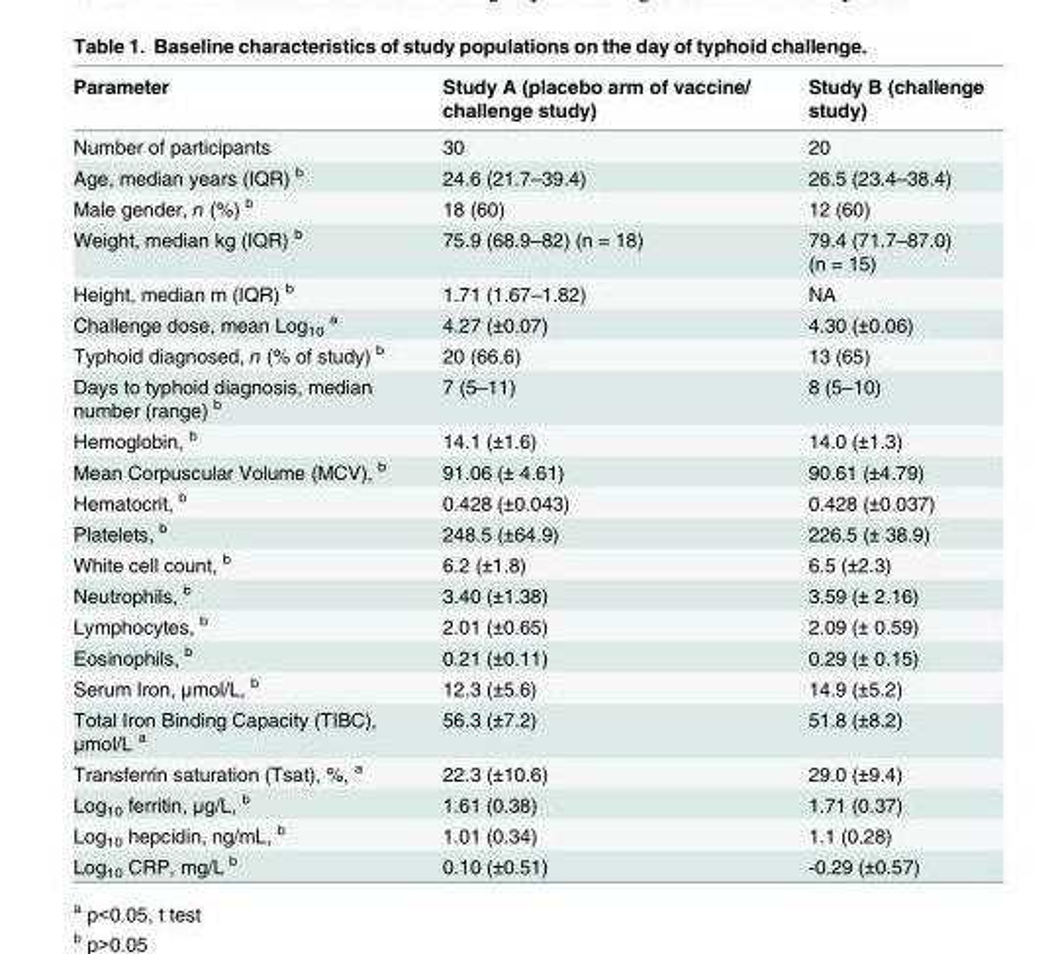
<table><thead><tr><td>Parameter</td><td>Study A (placebo arm of vaccine/ challenge study)</td><td>Study B (challenge study)</td></tr></thead><tbody><tr><td>Number of participants</td><td>30</td><td>20</td></tr><tr><td>Age, median years (IQR) <sup>b</sup></td><td>24.6 (21.7–39.4)</td><td>26.5 (23.4–38.4)</td></tr><tr><td>Male gender, n (%) <sup>b</sup></td><td>18 (60)</td><td>12 (60)</td></tr><tr><td>Weight, median kg (IQR) <sup>b</sup></td><td>75.9 (68.9–82) (n = 18)</td><td>79.4 (71.7–87.0) (n = 15)</td></tr><tr><td>Height, median m (IQR) <sup>b</sup></td><td>1.71 (1.67–1.82)</td><td>NA</td></tr><tr><td>Challenge dose, mean Log<sub>10</sub> <sup>a</sup></td><td>4.27 (±0.07)</td><td>4.30 (±0.06)</td></tr><tr><td>Typhoid diagnosed, n (% of study) <sup>b</sup></td><td>20 (66.6)</td><td>13 (65)</td></tr><tr><td>Days to typhoid diagnosis, median number (range) <sup>b</sup></td><td>7 (5–11)</td><td>8 (5–10)</td></tr><tr><td>Hemoglobin, <sup>b</sup></td><td>14.1 (±1.6)</td><td>14.0 (±1.3)</td></tr><tr><td>Mean Corpuscular Volume (MCV), <sup>b</sup></td><td>91.06 (± 4.61)</td><td>90.61 (±4.79)</td></tr><tr><td>Hematocrit, <sup>b</sup></td><td>0.428 (±0.043)</td><td>0.428 (±0.037)</td></tr><tr><td>Platelets, <sup>b</sup></td><td>248.5 (±64.9)</td><td>226.5 (± 38.9)</td></tr><tr><td>White cell count, <sup>b</sup></td><td>6.2 (±1.8)</td><td>6.5 (±2.3)</td></tr><tr><td>Neutrophils, <sup>b</sup></td><td>3.40 (±1.38)</td><td>3.59 (± 2.16)</td></tr><tr><td>Lymphocytes, <sup>b</sup></td><td>2.01 (±0.65)</td><td>2.09 (± 0.59)</td></tr><tr><td>Eosinophils, <sup>b</sup></td><td>0.21 (±0.11)</td><td>0.29 (± 0.15)</td></tr><tr><td>Serum Iron, μmol/L, <sup>b</sup></td><td>12.3 (±5.6)</td><td>14.9 (±5.2)</td></tr><tr><td>Total Iron Binding Capacity (TIBC), μmol/L <sup>a</sup></td><td>56.3 (±7.2)</td><td>51.8 (±8.2)</td></tr><tr><td>Transferrin saturation (Tsat), %, <sup>a</sup></td><td>22.3 (±10.6)</td><td>29.0 (±9.4)</td></tr><tr><td>Log<sub>10</sub> ferritin, μg/L, <sup>b</sup></td><td>1.61 (0.38)</td><td>1.71 (0.37)</td></tr><tr><td>Log<sub>10</sub> hepcidin, ng/mL, <sup>b</sup></td><td>1.01 (0.34)</td><td>1.1 (0.28)</td></tr><tr><td>Log<sub>10</sub> CRP, mg/L <sup>b</sup></td><td>0.10 (±0.51)</td><td>-0.29 (±0.57)</td></tr></tbody></table>